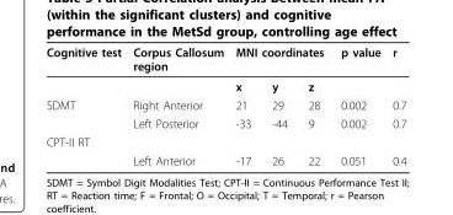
<table><thead><tr><td rowspan="2">Cognitive test</td><td rowspan="2">Corpus Callosum region</td><td colspan="3">MNI coordinates</td><td rowspan="2">p value</td><td rowspan="2">r</td></tr><tr><td>x</td><td>y</td><td>z</td></tr></thead><tbody><tr><td rowspan="2">SDMT</td><td>Right Anterior</td><td>21</td><td>29</td><td>28</td><td>0.002</td><td>0.7</td></tr><tr><td>Left Posterior</td><td>-33</td><td>-44</td><td>9</td><td>0.002</td><td>0.7</td></tr><tr><td colspan="7">CPT-II RT</td></tr><tr><td></td><td>Left Anterior</td><td>-17</td><td>26</td><td>22</td><td>0.051</td><td>0.4</td></tr></tbody></table>